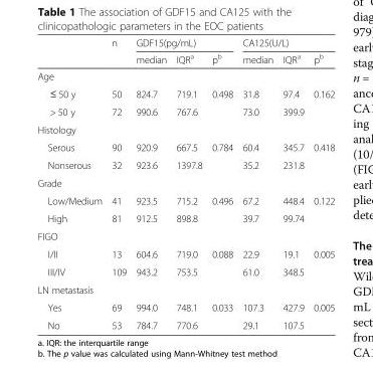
<table><thead><tr><td rowspan="2"></td><td rowspan="2">n</td><td colspan="3">GDF15(pg/mL)</td><td colspan="3">CA125(U/L)</td></tr><tr><td>median</td><td>IQR<sup>a</sup></td><td>p<sup>b</sup></td><td>median</td><td>IQR<sup>a</sup></td><td>p<sup>b</sup></td></tr></thead><tbody><tr><td colspan="8">Age</td></tr><tr><td>≤ 50 y</td><td>50</td><td>824.7</td><td>719.1</td><td>0.498</td><td>31.8</td><td>97.4</td><td>0.162</td></tr><tr><td>&gt; 50 y</td><td>72</td><td>990.6</td><td>767.6</td><td></td><td>73.0</td><td>399.9</td><td></td></tr><tr><td colspan="8">Histology</td></tr><tr><td>Serous</td><td>90</td><td>920.9</td><td>667.5</td><td>0.784</td><td>60.4</td><td>345.7</td><td>0.418</td></tr><tr><td>Nonserous</td><td>32</td><td>923.6</td><td>1397.8</td><td></td><td>35.2</td><td>231.8</td><td></td></tr><tr><td colspan="8">Grade</td></tr><tr><td>Low/Medium</td><td>41</td><td>923.5</td><td>715.2</td><td>0.496</td><td>67.2</td><td>448.4</td><td>0.122</td></tr><tr><td>High</td><td>81</td><td>912.5</td><td>898.8</td><td></td><td>39.7</td><td>99.74</td><td></td></tr><tr><td colspan="8">FIGO</td></tr><tr><td>I/II</td><td>13</td><td>604.6</td><td>719.0</td><td>0.088</td><td>22.9</td><td>19.1</td><td>0.005</td></tr><tr><td>III/IV</td><td>109</td><td>943.2</td><td>753.5</td><td></td><td>61.0</td><td>348.5</td><td></td></tr><tr><td colspan="8">LN metastasis</td></tr><tr><td>Yes</td><td>69</td><td>994.0</td><td>748.1</td><td>0.033</td><td>107.3</td><td>427.9</td><td>0.005</td></tr><tr><td>No</td><td>53</td><td>784.7</td><td>770.6</td><td></td><td>29.1</td><td>107.5</td><td></td></tr></tbody></table>